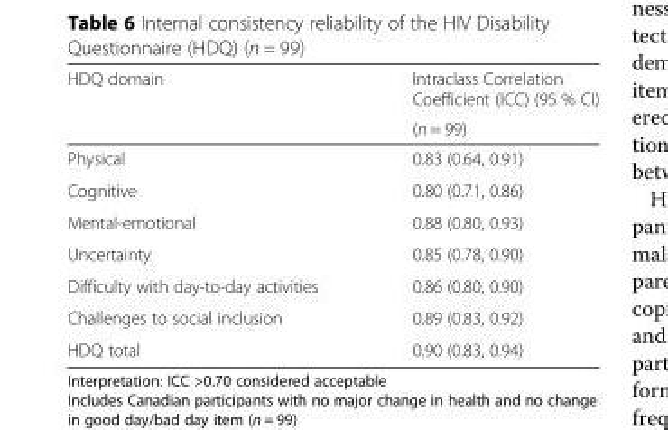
<table><thead><tr><td rowspan="2">HDQ domain</td><td rowspan="2">Intraclass Correlation Coefficient (ICC) (95 % CI) (n = 99)</td></tr><tr></tr></thead><tbody><tr><td>Physical</td><td>0.83 (0.64, 0.91)</td></tr><tr><td>Cognitive</td><td>0.80 (0.71, 0.86)</td></tr><tr><td>Mental-emotional</td><td>0.88 (0.80, 0.93)</td></tr><tr><td>Uncertainty</td><td>0.85 (0.78, 0.90)</td></tr><tr><td>Difficulty with day-to-day activities</td><td>0.86 (0.80, 0.90)</td></tr><tr><td>Challenges to social inclusion</td><td>0.89 (0.83, 0.92)</td></tr><tr><td>HDQ total</td><td>0.90 (0.83, 0.94)</td></tr></tbody></table>